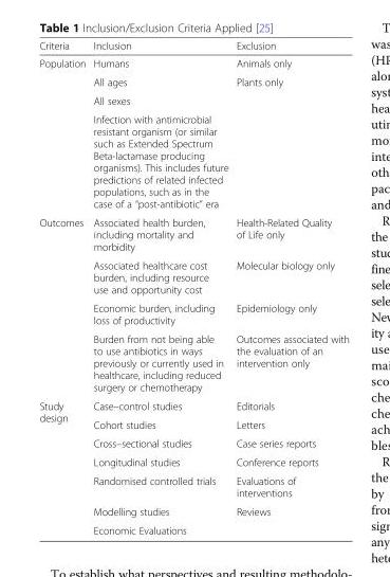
<table><thead><tr><td>Criteria</td><td>Inclusion</td><td>Exclusion</td></tr></thead><tbody><tr><td rowspan="4">Population</td><td>Humans</td><td>Animals only</td></tr><tr><td>All ages</td><td>Plants only</td></tr><tr><td>All sexes</td><td></td></tr><tr><td>Infection with antimicrobial resistant organism (or similar such as Extended Spectrum Beta-lactamase producing organisms). This includes future predictions of related infected populations, such as in the case of a “post-antibiotic” era</td><td></td></tr><tr><td rowspan="4">Outcomes</td><td>Associated health burden, including mortality and morbidity</td><td>Health-Related Quality of Life only</td></tr><tr><td>Associated healthcare cost burden, including resource use and opportunity cost</td><td>Molecular biology only</td></tr><tr><td>Economic burden, including loss of productivity</td><td>Epidemiology only</td></tr><tr><td>Burden from not being able to use antibiotics in ways previously or currently used in healthcare, including reduced surgery or chemotherapy</td><td>Outcomes associated with the evaluation of an intervention only</td></tr><tr><td rowspan="7">Study design</td><td>Case–control studies</td><td>Editorials</td></tr><tr><td>Cohort studies</td><td>Letters</td></tr><tr><td>Cross–sectional studies</td><td>Case series reports</td></tr><tr><td>Longitudinal studies</td><td>Conference reports</td></tr><tr><td>Randomised controlled trials</td><td>Evaluations of interventions</td></tr><tr><td>Modelling studies</td><td>Reviews</td></tr><tr><td>Economic Evaluations</td><td></td></tr></tbody></table>